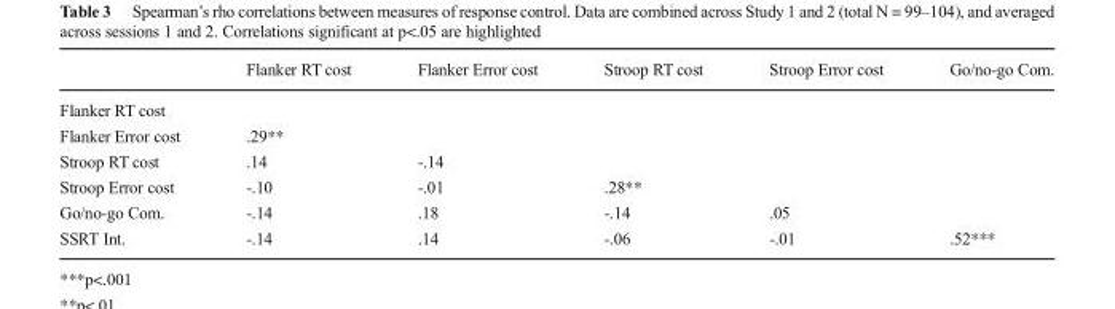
<table><thead><tr><td></td><td>Flanker RT cost</td><td>Flanker Error cost</td><td>Stroop RT cost</td><td>Stroop Error cost</td><td>Go/no-go Com.</td></tr></thead><tbody><tr><td colspan="6">Flanker RT cost</td></tr><tr><td>Flanker Error cost</td><td>.29**</td><td></td><td></td><td></td><td></td></tr><tr><td>Stroop RT cost</td><td>.14</td><td>-.14</td><td></td><td></td><td></td></tr><tr><td>Stroop Error cost</td><td>-.10</td><td>-.01</td><td>.28**</td><td></td><td></td></tr><tr><td>Go/no-go Com.</td><td>-.14</td><td>.18</td><td>-.14</td><td>.05</td><td></td></tr><tr><td>SSRT Int.</td><td>-.14</td><td>.14</td><td>-.06</td><td>-.01</td><td>.52***</td></tr></tbody></table>